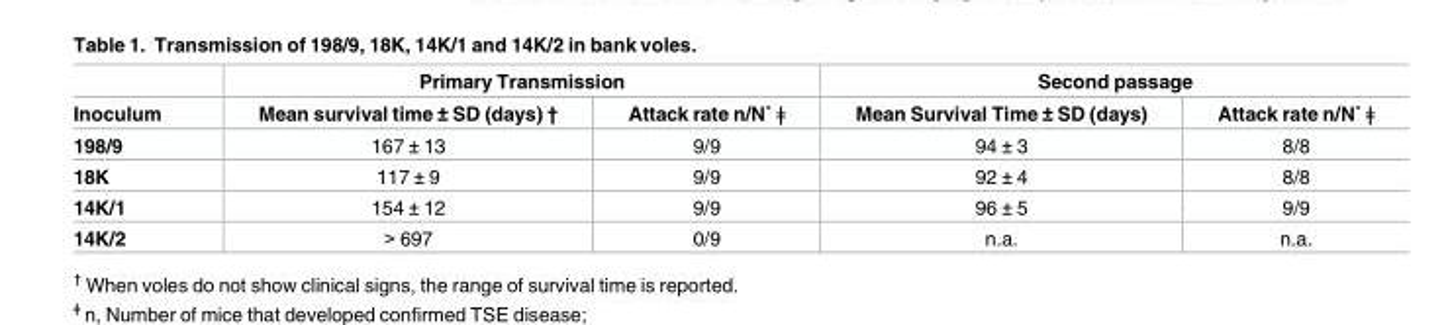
<table><thead><tr><td rowspan="2">Inoculum</td><td colspan="2">Primary Transmission</td><td colspan="2">Second passage</td></tr><tr><td>Mean survival time ± SD (days) †</td><td>Attack rate n/N˚ ǂ</td><td>Mean Survival Time ± SD (days)</td><td>Attack rate n/N˚ ǂ</td></tr></thead><tbody><tr><td>198/9</td><td>167 ± 13</td><td>9/9</td><td>94 ± 3</td><td>8/8</td></tr><tr><td>18K</td><td>117 ± 9</td><td>9/9</td><td>92 ± 4</td><td>8/8</td></tr><tr><td>14K/1</td><td>154 ± 12</td><td>9/9</td><td>96 ± 5</td><td>9/9</td></tr><tr><td>14K/2</td><td>&gt; 697</td><td>0/9</td><td>n.a.</td><td>n.a.</td></tr></tbody></table>